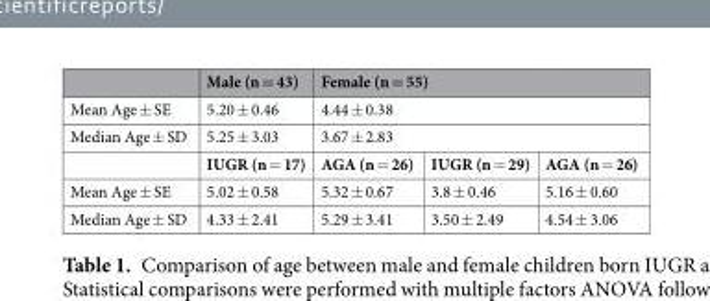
<table><thead><tr><td rowspan="4">Mean Age ± SE Median Age ± SD</td><td rowspan="4">Male (n = 43) 5.20 ± 0.46 5.25 ± 3.03 IUGR (n = 17)</td><td rowspan="3" colspan="3">Female (n = 55) 4.44 ± 0.38 3.67 ± 2.83</td></tr><tr></tr><tr></tr><tr><td>AGA (n = 26)</td><td>IUGR (n = 29)</td><td>AGA (n = 26)</td></tr></thead><tbody><tr><td>Mean Age ± SE</td><td>5.02 ± 0.58</td><td>5.32 ± 0.67</td><td>3.8 ± 0.46</td><td>5.16 ± 0.60</td></tr><tr><td>Median Age ± SD</td><td>4.33 ± 2.41</td><td>5.29 ± 3.41</td><td>3.50 ± 2.49</td><td>4.54 ± 3.06</td></tr></tbody></table>